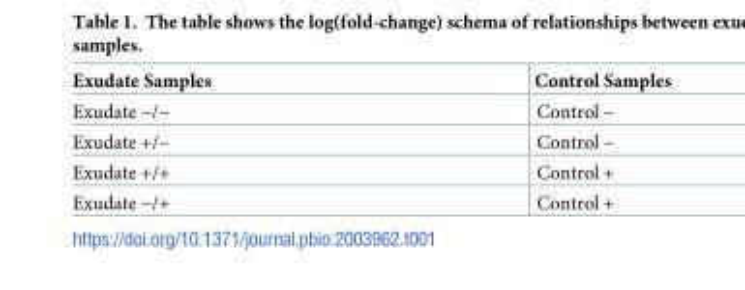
<table><thead><tr><td>Exudate Samples</td><td>Control Samples</td></tr></thead><tbody><tr><td>Exudate −/−</td><td>Control −</td></tr><tr><td>Exudate +/−</td><td>Control −</td></tr><tr><td>Exudate +/+</td><td>Control +</td></tr><tr><td>Exudate −/+</td><td>Control +</td></tr></tbody></table>